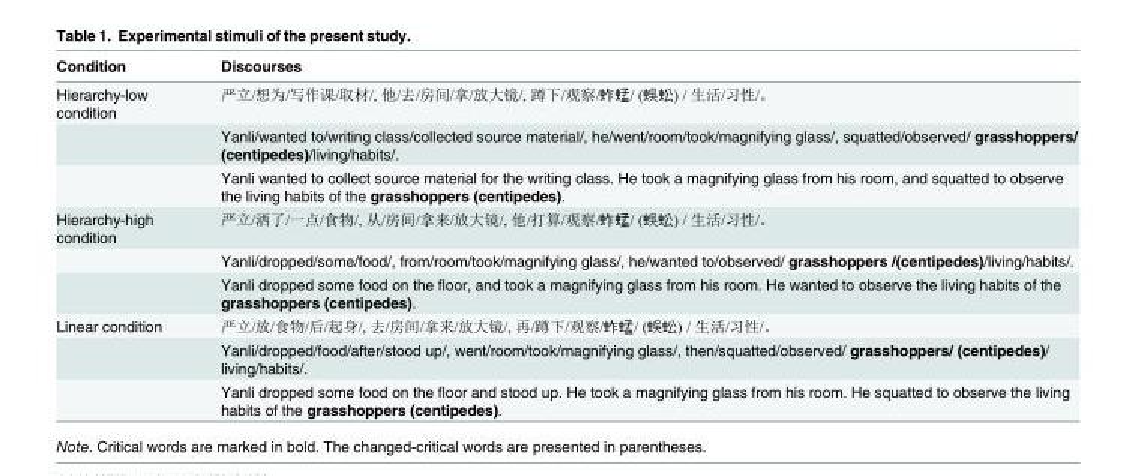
<table><thead><tr><td>Condition</td><td>Discourses</td></tr></thead><tbody><tr><td rowspan="3">Hierarchy-low condition</td><td>严立/想为/写作课/取材/, 他/去/房间/拿/放大镜/, 蹲下/观察/蚱蜢/ (蜈蚣) / 生活/习性/。</td></tr><tr><td>Yanli/wanted to/writing class/collected source material/, he/went/room/took/magnifying glass/, squatted/observed/ grasshoppers/ (centipedes)/living/habits/.</td></tr><tr><td>Yanli wanted to collect source material for the writing class. He took a magnifying glass from his room, and squatted to observe the living habits of the grasshoppers (centipedes).</td></tr><tr><td rowspan="3">Hierarchy-high condition</td><td>严立/洒了/一点/食物/, 从/房间/拿来/放大镜/, 他/打算/观察/蚱蜢/ (蜈蚣) / 生活/习性/。</td></tr><tr><td>Yanli/dropped/some/food/, from/room/took/magnifying glass/, he/wanted to/observed/ grasshoppers /(centipedes)/living/habits/.</td></tr><tr><td>Yanli dropped some food on the floor, and took a magnifying glass from his room. He wanted to observe the living habits of the grasshoppers (centipedes).</td></tr><tr><td rowspan="3">Linear condition</td><td>严立/放/食物/后/起身/, 去/房间/拿来/放大镜/, 再/蹲下/观察/蚱蜢/ (蜈蚣) / 生活/习性/。</td></tr><tr><td>Yanli/dropped/food/after/stood up/, went/room/took/magnifying glass/, then/squatted/observed/ grasshoppers/ (centipedes)/ living/habits/.</td></tr><tr><td>Yanli dropped some food on the floor and stood up. He took a magnifying glass from his room. He squatted to observe the living habits of the grasshoppers (centipedes).</td></tr></tbody></table>